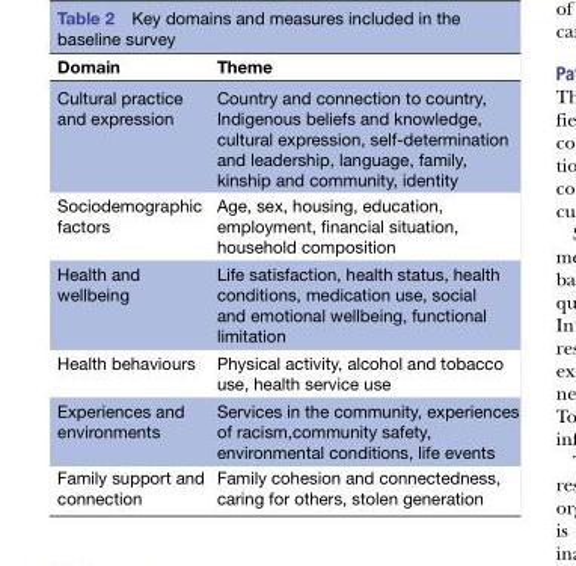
<table><thead><tr><td>Domain</td><td>Theme</td></tr></thead><tbody><tr><td>Cultural practice and expression</td><td>Country and connection to country, Indigenous beliefs and knowledge, cultural expression, self-determination and leadership, language, family, kinship and community, identity</td></tr><tr><td>Sociodemographic factors</td><td>Age, sex, housing, education, employment, financial situation, household composition</td></tr><tr><td>Health and wellbeing</td><td>Life satisfaction, health status, health conditions, medication use, social and emotional wellbeing, functional limitation</td></tr><tr><td>Health behaviours</td><td>Physical activity, alcohol and tobacco use, health service use</td></tr><tr><td>Experiences and environments</td><td>Services in the community, experiences of racism,community safety, environmental conditions, life events</td></tr><tr><td>Family support and connection</td><td>Family cohesion and connectedness, caring for others, stolen generation</td></tr></tbody></table>